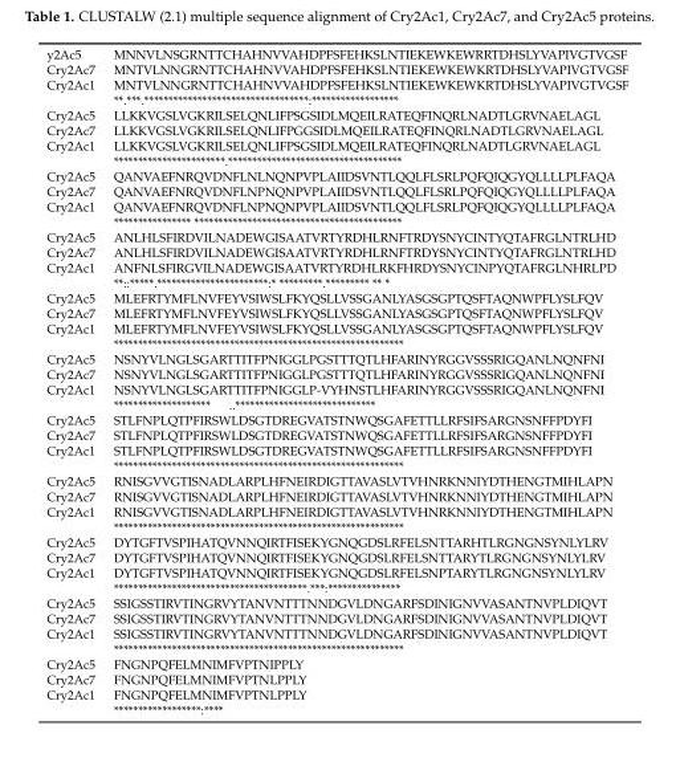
<table><tbody><tr><td>y2Ac5</td><td>MNNVLNSGRNTTCHAHNVVAHDPFSFEHKSLNTIEKEWKEWRRTDHSLYVAPIVGTVGSF</td></tr><tr><td>Cry2Ac7</td><td>MNTVLNNGRNTTCHAHNVVAHDPFSFEHKSLNTIEKEWKEWKRTDHSLYVAPIVGTVGSF</td></tr><tr><td rowspan="2">Cry2Ac1</td><td>MNTVLNNGRNTTCHAHNVVAHDPFSFEHKSLNTIEKEWKEWKRTDHSLYVAPIVGTVGSF</td></tr><tr><td>**.***.**********************************:******************</td></tr><tr><td>Cry2Ac5</td><td>LLKKVGSLVGKRILSELQNLIFPSGSIDLMQEILRATEQFINQRLNADTLGRVNAELAGL</td></tr><tr><td>Cry2Ac7</td><td>LLKKVGSLVGKRILSELQNLIFPGGSIDLMQEILRATEQFINQRLNADTLGRVNAELAGL</td></tr><tr><td rowspan="2">Cry2Ac1</td><td>LLKKVGSLVGKRILSELQNLIFPSGSIDLMQEILRATEQFINQRLNADTLGRVNAELAGL</td></tr><tr><td>***********************.************************************</td></tr><tr><td>Cry2Ac5</td><td>QANVAEFNRQVDNFLNLNQNPVPLAIIDSVNTLQQLFLSRLPQFQIQGYQLLLLPLFAQA</td></tr><tr><td>Cry2Ac7</td><td>QANVAEFNRQVDNFLNPNQNPVPLAIIDSVNTLQQLFLSRLPQFQIQGYQLLLLPLFAQA</td></tr><tr><td rowspan="2">Cry2Ac1</td><td>QANVAEFNRQVDNFLNPNQNPVPLAIIDSVNTLQQLFLSRLPQFQIQGYQLLLLPLFAQA</td></tr><tr><td>**************** *******************************************</td></tr><tr><td>Cry2Ac5</td><td>ANLHLSFIRDVILNADEWGISAATVRTYRDHLRNFTRDYSNYCINTYQTAFRGLNTRLHD</td></tr><tr><td>Cry2Ac7</td><td>ANLHLSFIRDVILNADEWGISAATVRTYRDHLRNFTRDYSNYCINTYQTAFRGLNTRLHD</td></tr><tr><td rowspan="2">Cry2Ac1</td><td>ANFNLSFIRGVILNADEWGISAATVRTYRDHLRKFHRDYSNYCINPYQTAFRGLNHRLPD</td></tr><tr><td>**::*****.***********************:* *********.********* ** *</td></tr><tr><td>Cry2Ac5</td><td>MLEFRTYMFLNVFEYVSIWSLFKYQSLLVSSGANLYASGSGPTQSFTAQNWPFLYSLFQV</td></tr><tr><td>Cry2Ac7</td><td>MLEFRTYMFLNVFEYVSIWSLFKYQSLLVSSGANLYASGSGPTQSFTAQNWPFLYSLFQV</td></tr><tr><td rowspan="2">Cry2Ac1</td><td>MLEFRTYMFLNVFEYVSIWSLFKYQSLLVSSGANLYASGSGPTQSFTAQNWPFLYSLFQV</td></tr><tr><td>************************************************************</td></tr><tr><td>Cry2Ac5</td><td>NSNYVLNGLSGARTTITFPNIGGLPGSTTTQTLHFARINYRGGVSSSRIGQANLNQNFNI</td></tr><tr><td>Cry2Ac7</td><td>NSNYVLNGLSGARTTITFPNIGGLPGSTTTQTLHFARINYRGGVSSSRIGQANLNQNFNI</td></tr><tr><td rowspan="2">Cry2Ac1</td><td>NSNYVLNGLSGARTTITFPNIGGLP-VYHNSTLHFARINYRGGVSSSRIGQANLNQNFNI</td></tr><tr><td>******************** ..*****************************</td></tr><tr><td>Cry2Ac5</td><td>STLFNPLQTPFIRSWLDSGTDREGVATSTNWQSGAFETTLLRFSIFSARGNSNFFPDYFI</td></tr><tr><td>Cry2Ac7</td><td>STLFNPLQTPFIRSWLDSGTDREGVATSTNWQSGAFETTLLRFSIFSARGNSNFFPDYFI</td></tr><tr><td rowspan="2">Cry2Ac1</td><td>STLFNPLQTPFIRSWLDSGTDREGVATSTNWQSGAFETTLLRFSIFSARGNSNFFPDYFI</td></tr><tr><td>************************************************************</td></tr><tr><td>Cry2Ac5</td><td>RNISGVVGTISNADLARPLHFNEIRDIGTTAVASLVTVHNRKNNIYDTHENGTMIHLAPN</td></tr><tr><td>Cry2Ac7</td><td>RNISGVVGTISNADLARPLHFNEIRDIGTTAVASLVTVHNRKNNIYDTHENGTMIHLAPN</td></tr><tr><td rowspan="2">Cry2Ac1</td><td>RNISGVVGTISNADLARPLHFNEIRDIGTTAVASLVTVHNRKNNIYDTHENGTMIHLAPN</td></tr><tr><td>************************************************************</td></tr><tr><td>Cry2Ac5</td><td>DYTGFTVSPIHATQVNNQIRTFISEKYGNQGDSLRFELSNTTARHTLRGNGNSYNLYLRV</td></tr><tr><td>Cry2Ac7</td><td>DYTGFTVSPIHATQVNNQIRTFISEKYGNQGDSLRFELSNTTARYTLRGNGNSYNLYLRV</td></tr><tr><td rowspan="2">Cry2Ac1</td><td>DYTGFTVSPIHATQVNNQIRTFISEKYGNQGDSLRFELSNPTARYTLRGNGNSYNLYLRV</td></tr><tr><td>****************************************.***:***************</td></tr><tr><td>Cry2Ac5</td><td>SSIGSSTIRVTINGRVYTANVNTTTNNDGVLDNGARFSDINIGNVVASANTNVPLDIQVT</td></tr><tr><td>Cry2Ac7</td><td>SSIGSSTIRVTINGRVYTANVNTTTNNDGVLDNGARFSDINIGNVVASANTNVPLDIQVT</td></tr><tr><td rowspan="2">Cry2Ac1</td><td>SSIGSSTIRVTINGRVYTANVNTTTNNDGVLDNGARFSDINIGNVVASANTNVPLDIQVT</td></tr><tr><td>************************************************************</td></tr><tr><td>Cry2Ac5</td><td>FNGNPQFELMNIMFVPTNIPPLY</td></tr><tr><td>Cry2Ac7</td><td>FNGNPQFELMNIMFVPTNLPPLY</td></tr><tr><td rowspan="2">Cry2Ac1</td><td>FNGNPQFELMNIMFVPTNLPPLY</td></tr><tr><td>******************:****</td></tr></tbody></table>